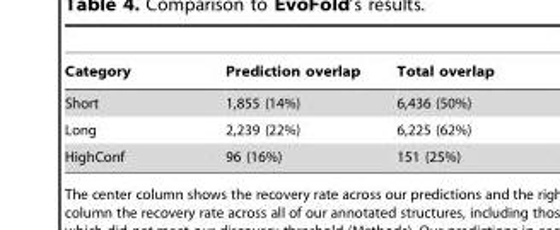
<table><thead><tr><td>Category</td><td>Prediction overlap</td><td>Total overlap</td></tr></thead><tbody><tr><td>Short</td><td>1,855 (14%)</td><td>6,436 (50%)</td></tr><tr><td>Long</td><td>2,239 (22%)</td><td>6,225 (62%)</td></tr><tr><td>HighConf</td><td>96 (16%)</td><td>151 (25%)</td></tr></tbody></table>